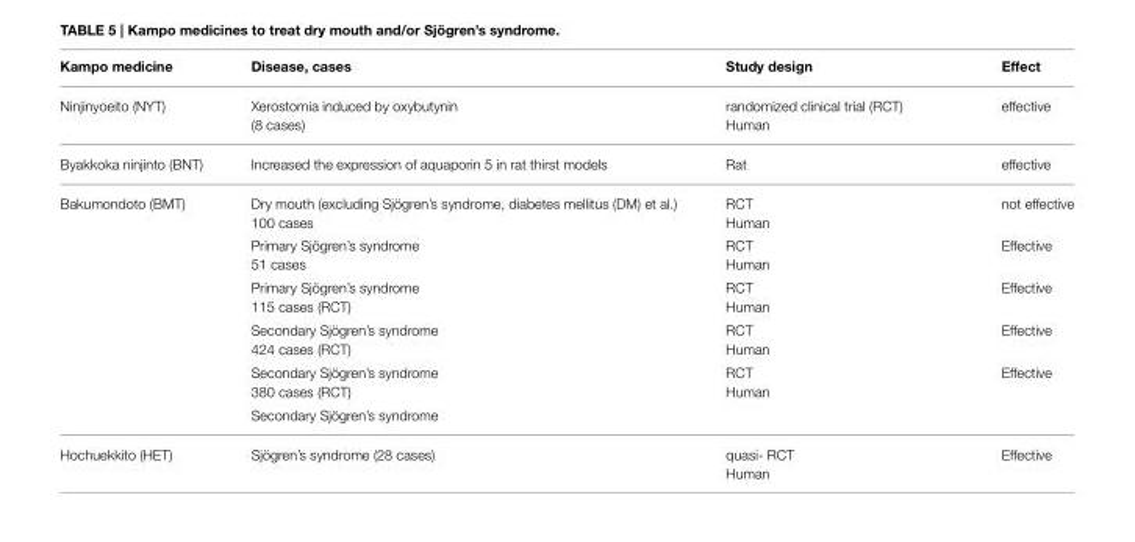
<table><thead><tr><td>Kampo medicine</td><td>Disease, cases</td><td>Study design</td><td>Effect</td></tr></thead><tbody><tr><td>Ninjinyoeito (NYT)</td><td>Xerostomia induced by oxybutynin (8 cases)</td><td>randomized clinical trial (RCT) Human</td><td>effective</td></tr><tr><td>Byakkoka ninjinto (BNT)</td><td>Increased the expression of aquaporin 5 in rat thirst models</td><td>Rat</td><td>effective</td></tr><tr><td rowspan="6">Bakumondoto (BMT)</td><td>Dry mouth (excluding Sjögren’s syndrome, diabetes mellitus (DM) et al.) 100 cases</td><td>RCT Human</td><td>not effective</td></tr><tr><td>Primary Sjögren’s syndrome 51 cases</td><td>RCT Human</td><td>Effective</td></tr><tr><td>Primary Sjögren’s syndrome 115 cases (RCT)</td><td>RCT Human</td><td>Effective</td></tr><tr><td>Secondary Sjögren’s syndrome 424 cases (RCT)</td><td>RCT Human</td><td>Effective</td></tr><tr><td>Secondary Sjögren’s syndrome 380 cases (RCT)</td><td>RCT Human</td><td>Effective</td></tr><tr><td>Secondary Sjögren’s syndrome</td><td></td><td></td></tr><tr><td>Hochuekkito (HET)</td><td>Sjögren’s syndrome (28 cases)</td><td>quasi- RCT Human</td><td>Effective</td></tr></tbody></table>